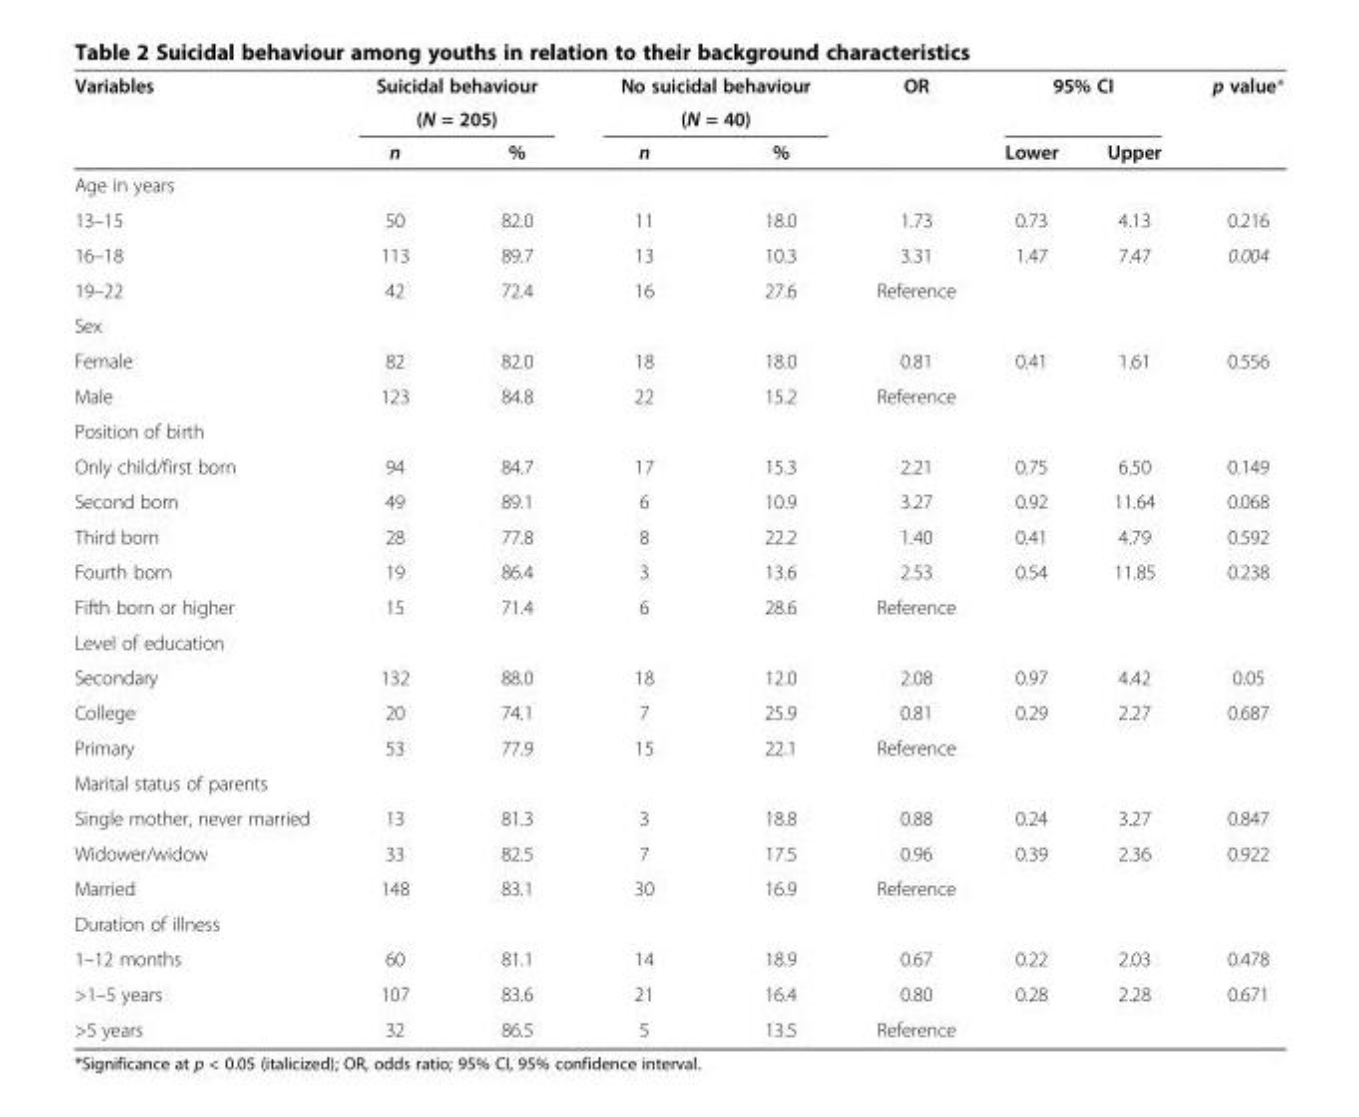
<table><thead><tr><td rowspan="3">Variables</td><td rowspan="2" colspan="2">Suicidal behaviour (N = 205)</td><td rowspan="2" colspan="2">No suicidal behaviour (N = 40)</td><td rowspan="3">OR</td><td colspan="2">95% CI</td><td rowspan="3">p value*</td></tr><tr><td rowspan="2">Lower</td><td rowspan="2">Upper</td></tr><tr><td>n</td><td>%</td><td>n</td><td>%</td></tr></thead><tbody><tr><td colspan="9">Age in years</td></tr><tr><td>13–15</td><td>50</td><td>82.0</td><td>11</td><td>18.0</td><td>1.73</td><td>0.73</td><td>4.13</td><td>0.216</td></tr><tr><td>16–18</td><td>113</td><td>89.7</td><td>13</td><td>10.3</td><td>3.31</td><td>1.47</td><td>7.47</td><td>0.004</td></tr><tr><td>19–22</td><td>42</td><td>72.4</td><td>16</td><td>27.6</td><td>Reference</td><td></td><td></td><td></td></tr><tr><td colspan="9">Sex</td></tr><tr><td>Female</td><td>82</td><td>82.0</td><td>18</td><td>18.0</td><td>0.81</td><td>0.41</td><td>1.61</td><td>0.556</td></tr><tr><td>Male</td><td>123</td><td>84.8</td><td>22</td><td>15.2</td><td>Reference</td><td></td><td></td><td></td></tr><tr><td colspan="9">Position of birth</td></tr><tr><td>Only child/first born</td><td>94</td><td>84.7</td><td>17</td><td>15.3</td><td>2.21</td><td>0.75</td><td>6.50</td><td>0.149</td></tr><tr><td>Second born</td><td>49</td><td>89.1</td><td>6</td><td>10.9</td><td>3.27</td><td>0.92</td><td>11.64</td><td>0.068</td></tr><tr><td>Third born</td><td>28</td><td>77.8</td><td>8</td><td>22.2</td><td>1.40</td><td>0.41</td><td>4.79</td><td>0.592</td></tr><tr><td>Fourth born</td><td>19</td><td>86.4</td><td>3</td><td>13.6</td><td>2.53</td><td>0.54</td><td>11.85</td><td>0.238</td></tr><tr><td>Fifth born or higher</td><td>15</td><td>71.4</td><td>6</td><td>28.6</td><td>Reference</td><td></td><td></td><td></td></tr><tr><td colspan="9">Level of education</td></tr><tr><td>Secondary</td><td>132</td><td>88.0</td><td>18</td><td>12.0</td><td>2.08</td><td>0.97</td><td>4.42</td><td>0.05</td></tr><tr><td>College</td><td>20</td><td>74.1</td><td>7</td><td>25.9</td><td>0.81</td><td>0.29</td><td>2.27</td><td>0.687</td></tr><tr><td>Primary</td><td>53</td><td>77.9</td><td>15</td><td>22.1</td><td>Reference</td><td></td><td></td><td></td></tr><tr><td colspan="9">Marital status of parents</td></tr><tr><td>Single mother, never married</td><td>13</td><td>81.3</td><td>3</td><td>18.8</td><td>0.88</td><td>0.24</td><td>3.27</td><td>0.847</td></tr><tr><td>Widower/widow</td><td>33</td><td>82.5</td><td>7</td><td>17.5</td><td>0.96</td><td>0.39</td><td>2.36</td><td>0.922</td></tr><tr><td>Married</td><td>148</td><td>83.1</td><td>30</td><td>16.9</td><td>Reference</td><td></td><td></td><td></td></tr><tr><td colspan="9">Duration of illness</td></tr><tr><td>1–12 months</td><td>60</td><td>81.1</td><td>14</td><td>18.9</td><td>0.67</td><td>0.22</td><td>2.03</td><td>0.478</td></tr><tr><td>&gt;1–5 years</td><td>107</td><td>83.6</td><td>21</td><td>16.4</td><td>0.80</td><td>0.28</td><td>2.28</td><td>0.671</td></tr><tr><td>&gt;5 years</td><td>32</td><td>86.5</td><td>5</td><td>13.5</td><td>Reference</td><td></td><td></td><td></td></tr></tbody></table>